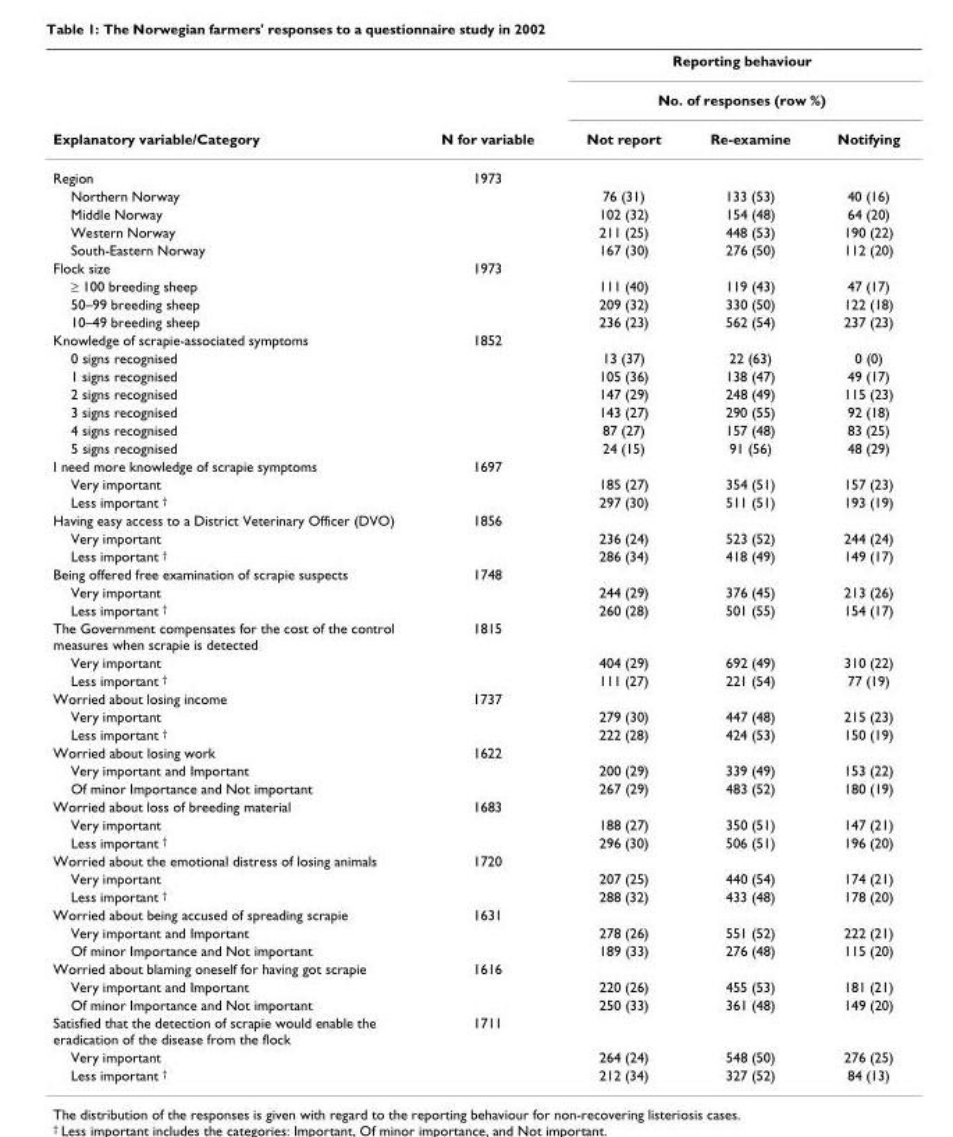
<table><thead><tr><td rowspan="3">Explanatory variable/Category</td><td rowspan="3">N for variable</td><td rowspan="2" colspan="3">Reporting behaviour No. of responses (row %)</td></tr><tr></tr><tr><td>Not report</td><td>Re-examine</td><td>Notifying</td></tr></thead><tbody><tr><td>Region</td><td>1973</td><td></td><td></td><td></td></tr><tr><td>Northern Norway</td><td></td><td>76 (31)</td><td>133 (53)</td><td>40 (16)</td></tr><tr><td>Middle Norway</td><td></td><td>102 (32)</td><td>154 (48)</td><td>64 (20)</td></tr><tr><td>Western Norway</td><td></td><td>211 (25)</td><td>448 (53)</td><td>190 (22)</td></tr><tr><td>South-Eastern Norway</td><td></td><td>167 (30)</td><td>276 (50)</td><td>112 (20)</td></tr><tr><td>Flock size</td><td>1973</td><td></td><td></td><td></td></tr><tr><td>≥ 100 breeding sheep</td><td></td><td>111 (40)</td><td>119 (43)</td><td>47 (17)</td></tr><tr><td>50–99 breeding sheep</td><td></td><td>209 (32)</td><td>330 (50)</td><td>122 (18)</td></tr><tr><td>10–49 breeding sheep</td><td></td><td>236 (23)</td><td>562 (54)</td><td>237 (23)</td></tr><tr><td>Knowledge of scrapie-associated symptoms</td><td>1852</td><td></td><td></td><td></td></tr><tr><td>0 signs recognised</td><td></td><td>13 (37)</td><td>22 (63)</td><td>0 (0)</td></tr><tr><td>1 signs recognised</td><td></td><td>105 (36)</td><td>138 (47)</td><td>49 (17)</td></tr><tr><td>2 signs recognised</td><td></td><td>147 (29)</td><td>248 (49)</td><td>115 (23)</td></tr><tr><td>3 signs recognised</td><td></td><td>143 (27)</td><td>290 (55)</td><td>92 (18)</td></tr><tr><td>4 signs recognised</td><td></td><td>87 (27)</td><td>157 (48)</td><td>83 (25)</td></tr><tr><td>5 signs recognised</td><td></td><td>24 (15)</td><td>91 (56)</td><td>48 (29)</td></tr><tr><td>I need more knowledge of scrapie symptoms</td><td>1697</td><td></td><td></td><td></td></tr><tr><td>Very important</td><td></td><td>185 (27)</td><td>354 (51)</td><td>157 (23)</td></tr><tr><td>Less important <sup>†</sup></td><td></td><td>297 (30)</td><td>511 (51)</td><td>193 (19)</td></tr><tr><td>Having easy access to a District Veterinary Officer (DVO)</td><td>1856</td><td></td><td></td><td></td></tr><tr><td>Very important</td><td></td><td>236 (24)</td><td>523 (52)</td><td>244 (24)</td></tr><tr><td>Less important <sup>†</sup></td><td></td><td>286 (34)</td><td>418 (49)</td><td>149 (17)</td></tr><tr><td>Being offered free examination of scrapie suspects</td><td>1748</td><td></td><td></td><td></td></tr><tr><td>Very important</td><td></td><td>244 (29)</td><td>376 (45)</td><td>213 (26)</td></tr><tr><td>Less important <sup>†</sup></td><td></td><td>260 (28)</td><td>501 (55)</td><td>154 (17)</td></tr><tr><td>The Government compensates for the cost of the control measures when scrapie is detected</td><td>1815</td><td></td><td></td><td></td></tr><tr><td>Very important</td><td></td><td>404 (29)</td><td>692 (49)</td><td>310 (22)</td></tr><tr><td>Less important <sup>†</sup></td><td></td><td>111 (27)</td><td>221 (54)</td><td>77 (19)</td></tr><tr><td>Worried about losing income</td><td>1737</td><td></td><td></td><td></td></tr><tr><td>Very important</td><td></td><td>279 (30)</td><td>447 (48)</td><td>215 (23)</td></tr><tr><td>Less important <sup>†</sup></td><td></td><td>222 (28)</td><td>424 (53)</td><td>150 (19)</td></tr><tr><td>Worried about losing work</td><td>1622</td><td></td><td></td><td></td></tr><tr><td>Very important and Important</td><td></td><td>200 (29)</td><td>339 (49)</td><td>153 (22)</td></tr><tr><td>Of minor Importance and Not important</td><td></td><td>267 (29)</td><td>483 (52)</td><td>180 (19)</td></tr><tr><td>Worried about loss of breeding material</td><td>1683</td><td></td><td></td><td></td></tr><tr><td>Very important</td><td></td><td>188 (27)</td><td>350 (51)</td><td>147 (21)</td></tr><tr><td>Less important <sup>†</sup></td><td></td><td>296 (30)</td><td>506 (51)</td><td>196 (20)</td></tr><tr><td>Worried about the emotional distress of losing animals</td><td>1720</td><td></td><td></td><td></td></tr><tr><td>Very important</td><td></td><td>207 (25)</td><td>440 (54)</td><td>174 (21)</td></tr><tr><td>Less important <sup>†</sup></td><td></td><td>288 (32)</td><td>433 (48)</td><td>178 (20)</td></tr><tr><td>Worried about being accused of spreading scrapie</td><td>1631</td><td></td><td></td><td></td></tr><tr><td>Very important and Important</td><td></td><td>278 (26)</td><td>551 (52)</td><td>222 (21)</td></tr><tr><td>Of minor Importance and Not important</td><td></td><td>189 (33)</td><td>276 (48)</td><td>115 (20)</td></tr><tr><td>Worried about blaming oneself for having got scrapie</td><td>1616</td><td></td><td></td><td></td></tr><tr><td>Very important and Important</td><td></td><td>220 (26)</td><td>455 (53)</td><td>181 (21)</td></tr><tr><td>Of minor Importance and Not important</td><td></td><td>250 (33)</td><td>361 (48)</td><td>149 (20)</td></tr><tr><td>Satisfied that the detection of scrapie would enable the eradication of the disease from the flock</td><td>1711</td><td></td><td></td><td></td></tr><tr><td>Very important</td><td></td><td>264 (24)</td><td>548 (50)</td><td>276 (25)</td></tr><tr><td>Less important <sup>†</sup></td><td></td><td>212 (34)</td><td>327 (52)</td><td>84 (13)</td></tr></tbody></table>